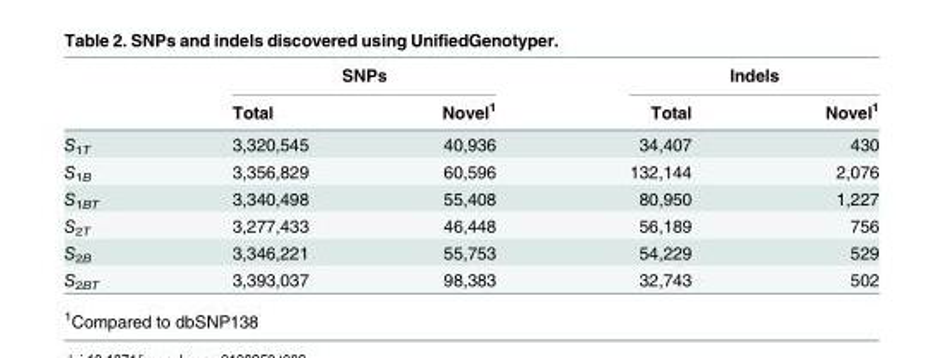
<table><thead><tr><td rowspan="2"></td><td colspan="2">SNPs</td><td colspan="2">Indels</td></tr><tr><td>Total</td><td>Novel<sup>1</sup></td><td>Total</td><td>Novel<sup>1</sup></td></tr></thead><tbody><tr><td>S<sub>1T</sub></td><td>3,320,545</td><td>40,936</td><td>34,407</td><td>430</td></tr><tr><td>S<sub>1B</sub></td><td>3,356,829</td><td>60,596</td><td>132,144</td><td>2,076</td></tr><tr><td>S<sub>1BT</sub></td><td>3,340,498</td><td>55,408</td><td>80,950</td><td>1,227</td></tr><tr><td>S<sub>2T</sub></td><td>3,277,433</td><td>46,448</td><td>56,189</td><td>756</td></tr><tr><td>S<sub>2B</sub></td><td>3,346,221</td><td>55,753</td><td>54,229</td><td>529</td></tr><tr><td>S<sub>2BT</sub></td><td>3,393,037</td><td>98,383</td><td>32,743</td><td>502</td></tr></tbody></table>